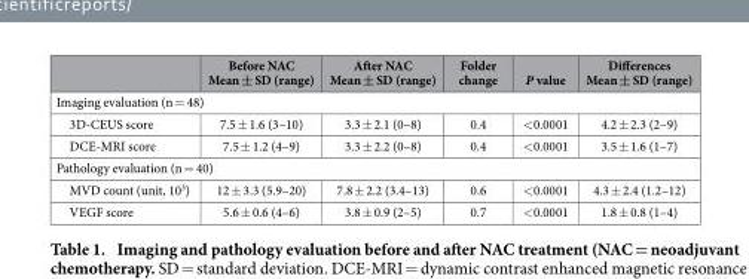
<table><thead><tr><td></td><td>Before NAC Mean ± SD (range)</td><td>After NAC Mean ± SD (range)</td><td>Folder change</td><td>P value</td><td>Differences Mean ± SD (range)</td></tr></thead><tbody><tr><td colspan="6">Imaging evaluation (n = 48)</td></tr><tr><td>3D-CEUS score</td><td>7.5 ± 1.6 (3–10)</td><td>3.3 ± 2.1 (0–8)</td><td>0.4</td><td>&lt; 0.0001</td><td>4.2 ± 2.3 (2–9)</td></tr><tr><td>DCE-MRI score</td><td>7.5 ± 1.2 (4–9)</td><td>3.3 ± 2.2 (0–8)</td><td>0.4</td><td>&lt; 0.0001</td><td>3.5 ± 1.6 (1–7)</td></tr><tr><td colspan="6">Pathology evaluation (n = 40)</td></tr><tr><td>MVD count (unit, 10<sup>3</sup>)</td><td>12 ± 3.3 (5.9–20)</td><td>7.8 ± 2.2 (3.4–13)</td><td>0.6</td><td>&lt; 0.0001</td><td>4.3 ± 2.4 (1.2–12)</td></tr><tr><td>VEGF score</td><td>5.6 ± 0.6 (4–6)</td><td>3.8 ± 0.9 (2–5)</td><td>0.7</td><td>&lt; 0.0001</td><td>1.8 ± 0.8 (1–4)</td></tr></tbody></table>